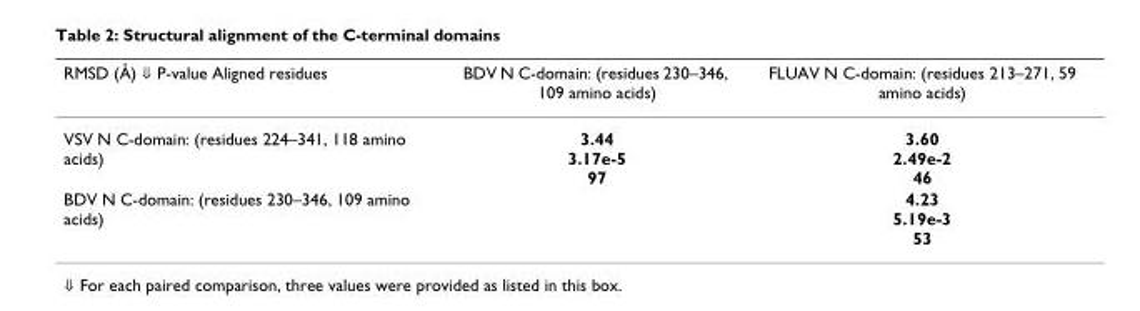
<table><thead><tr><td>RMSD (Å) ‡ P-value Aligned residues</td><td>BDV N C-domain: (residues 230–346, 109 amino acids)</td><td>FLUAV N C-domain: (residues 213–271, 59 amino acids)</td></tr></thead><tbody><tr><td>VSV N C-domain: (residues 224–341, 118 amino acids)</td><td>3.44 3.17e-5 97</td><td>3.60 2.49e-2 46</td></tr><tr><td>BDV N C-domain: (residues 230–346, 109 amino acids)</td><td></td><td>4.23 5.19e-3 53</td></tr></tbody></table>